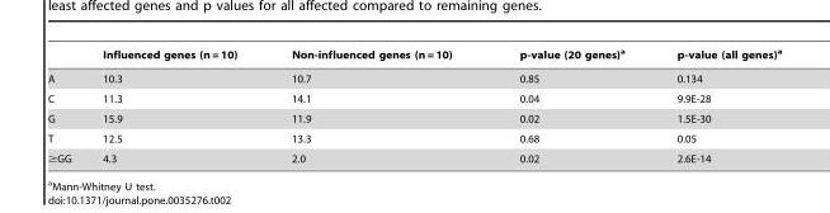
<table><thead><tr><td></td><td>Influenced genes (n = 10)</td><td>Non-influenced genes (n = 10)</td><td>p-value (20 genes)<sup>a</sup></td><td>p-value (all genes)<sup>a</sup></td></tr></thead><tbody><tr><td>A</td><td>10.3</td><td>10.7</td><td>0.85</td><td>0.134</td></tr><tr><td>C</td><td>11.3</td><td>14.1</td><td>0.04</td><td>9.9E-28</td></tr><tr><td>G</td><td>15.9</td><td>11.9</td><td>0.02</td><td>1.5E-30</td></tr><tr><td>T</td><td>12.5</td><td>13.3</td><td>0.68</td><td>0.05</td></tr><tr><td>≥GG</td><td>4.3</td><td>2.0</td><td>0.02</td><td>2.6E-14</td></tr></tbody></table>